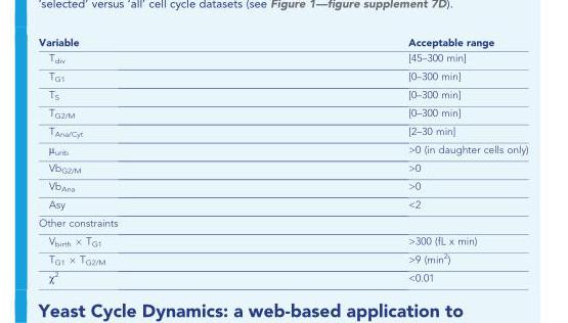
<table><thead><tr><td>Variable</td><td>Acceptable range</td></tr></thead><tbody><tr><td>T<sub>div</sub></td><td>[45–300 min]</td></tr><tr><td>T<sub>G1</sub></td><td>[0–300 min]</td></tr><tr><td>T<sub>S</sub></td><td>[0–300 min]</td></tr><tr><td>T<sub>G2/M</sub></td><td>[0–300 min]</td></tr><tr><td>T<sub>Ana/Cyt</sub></td><td>[2–30 min]</td></tr><tr><td>μ<sub>unb.</sub></td><td>&gt;0 (in daughter cells only)</td></tr><tr><td>Vb<sub>G2/M</sub></td><td>&gt;0</td></tr><tr><td>Vb<sub>Ana</sub></td><td>&gt;0</td></tr><tr><td>Asy</td><td>&lt;2</td></tr><tr><td colspan="2">Other constraints</td></tr><tr><td>V<sub>birth</sub> × T<sub>G1</sub></td><td>&gt;300 (fL x min)</td></tr><tr><td>T<sub>G1</sub> × T<sub>G2/M</sub></td><td>&gt;9 (min<sup>2</sup>)</td></tr><tr><td>χ<sup>2</sup></td><td>&lt;0.01</td></tr></tbody></table>